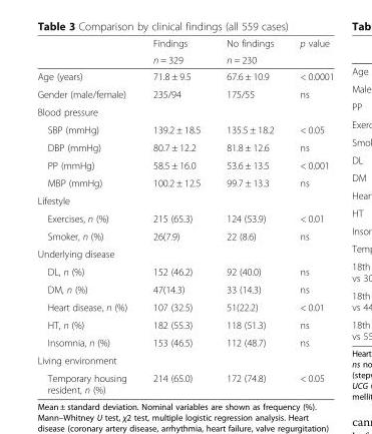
<table><thead><tr><td rowspan="2"></td><td rowspan="2">Findings n = 329</td><td rowspan="2">No findings n = 230</td><td rowspan="2">p value</td></tr><tr></tr></thead><tbody><tr><td>Age (years)</td><td>71.8 ± 9.5</td><td>67.6 ± 10.9</td><td>&lt; 0.0001</td></tr><tr><td>Gender (male/female)</td><td>235/94</td><td>175/55</td><td>ns</td></tr><tr><td colspan="4">Blood pressure</td></tr><tr><td>SBP (mmHg)</td><td>139.2 ± 18.5</td><td>135.5 ± 18.2</td><td>&lt; 0.05</td></tr><tr><td>DBP (mmHg)</td><td>80.7 ± 12.2</td><td>81.8 ± 12.6</td><td>ns</td></tr><tr><td>PP (mmHg)</td><td>58.5 ± 16.0</td><td>53.6 ± 13.5</td><td>&lt; 0.001</td></tr><tr><td>MBP (mmHg)</td><td>100.2 ± 12.5</td><td>99.7 ± 13.3</td><td>ns</td></tr><tr><td colspan="4">Lifestyle</td></tr><tr><td>Exercises, n (%)</td><td>215 (65.3)</td><td>124 (53.9)</td><td>&lt; 0.01</td></tr><tr><td>Smoker, n (%)</td><td>26(7.9)</td><td>22 (8.6)</td><td>ns</td></tr><tr><td colspan="4">Underlying disease</td></tr><tr><td>DL, n (%)</td><td>152 (46.2)</td><td>92 (40.0)</td><td>ns</td></tr><tr><td>DM, n (%)</td><td>47(14.3)</td><td>33 (14.3)</td><td>ns</td></tr><tr><td>Heart disease, n (%)</td><td>107 (32.5)</td><td>51(22.2)</td><td>&lt; 0.01</td></tr><tr><td>HT, n (%)</td><td>182 (55.3)</td><td>118 (51.3)</td><td>ns</td></tr><tr><td>Insomnia, n (%)</td><td>153 (46.5)</td><td>112 (48.7)</td><td>ns</td></tr><tr><td colspan="4">Living environment</td></tr><tr><td>Temporary housing resident, n (%)</td><td>214 (65.0)</td><td>172 (74.8)</td><td>&lt; 0.05</td></tr></tbody></table>